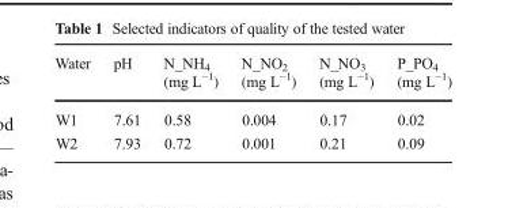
<table><thead><tr><td>Water</td><td>pH</td><td>N_NH<sub>4</sub> (mg L<sup>−1</sup>)</td><td>N_NO<sub>2</sub> (mg L<sup>−1</sup>)</td><td>N_NO<sub>3</sub> (mg L<sup>−1</sup>)</td><td>P_PO<sub>4</sub> (mg L<sup>−1</sup>)</td></tr></thead><tbody><tr><td>W1</td><td>7.61</td><td>0.58</td><td>0.004</td><td>0.17</td><td>0.02</td></tr><tr><td>W2</td><td>7.93</td><td>0.72</td><td>0.001</td><td>0.21</td><td>0.09</td></tr></tbody></table>